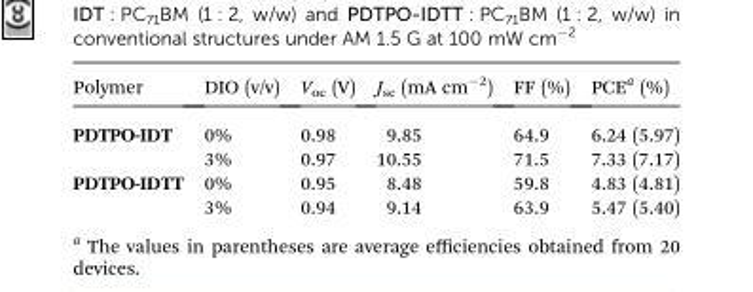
<table><thead><tr><td>Polymer</td><td>DIO (v/v)</td><td>V<sub>oc</sub> (V)</td><td>J<sub>sc</sub> (mA cm<sup>–2</sup>)</td><td>FF (%)</td><td>PCE<sup>a</sup> (%)</td></tr></thead><tbody><tr><td rowspan="2">PDTPO-IDT</td><td>0%</td><td>0.98</td><td>9.85</td><td>64.9</td><td>6.24 (5.97)</td></tr><tr><td>3%</td><td>0.97</td><td>10.55</td><td>71.5</td><td>7.33 (7.17)</td></tr><tr><td rowspan="2">PDTPO-IDTT</td><td>0%</td><td>0.95</td><td>8.48</td><td>59.8</td><td>4.83 (4.81)</td></tr><tr><td>3%</td><td>0.94</td><td>9.14</td><td>63.9</td><td>5.47 (5.40)</td></tr></tbody></table>